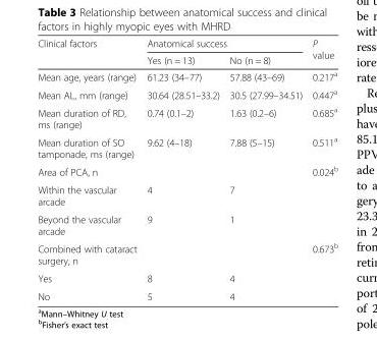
<table><thead><tr><td rowspan="2">Clinical factors</td><td colspan="2">Anatomical success</td><td rowspan="2">P value</td></tr><tr><td>Yes (n = 13)</td><td>No (n = 8)</td></tr></thead><tbody><tr><td>Mean age, years (range)</td><td>61.23 (34–77)</td><td>57.88 (43–69)</td><td>0.217<sup>a</sup></td></tr><tr><td>Mean AL, mm (range)</td><td>30.64 (28.51–33.2)</td><td>30.5 (27.99–34.51)</td><td>0.447<sup>a</sup></td></tr><tr><td>Mean duration of RD, ms (range)</td><td>0.74 (0.1–2)</td><td>1.63 (0.2–6)</td><td>0.685<sup>a</sup></td></tr><tr><td>Mean duration of SO tamponade, ms (range)</td><td>9.62 (4–18)</td><td>7.88 (5–15)</td><td>0.511<sup>a</sup></td></tr><tr><td>Area of PCA, n</td><td></td><td></td><td>0.024<sup>b</sup></td></tr><tr><td>Within the vascular arcade</td><td>4</td><td>7</td><td></td></tr><tr><td>Beyond the vascular arcade</td><td>9</td><td>1</td><td></td></tr><tr><td>Combined with cataract surgery, n</td><td></td><td></td><td>0.673<sup>b</sup></td></tr><tr><td>Yes</td><td>8</td><td>4</td><td></td></tr><tr><td>No</td><td>5</td><td>4</td><td></td></tr></tbody></table>